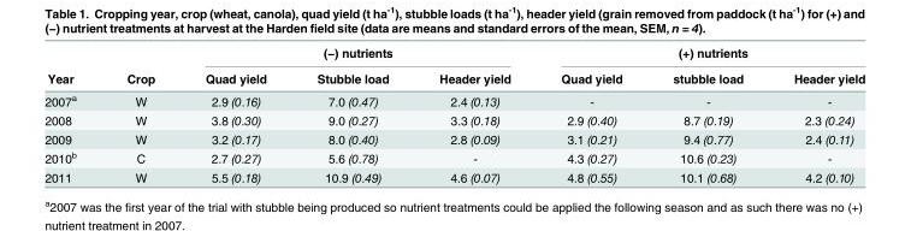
<table><thead><tr><td rowspan="2">Year</td><td rowspan="2">Crop</td><td colspan="3">(−) nutrients</td><td colspan="3">(+) nutrients</td></tr><tr><td>Quad yield</td><td>Stubble load</td><td>Header yield</td><td>Quad yield</td><td>stubble load</td><td>Header yield</td></tr></thead><tbody><tr><td>2007<sup>a</sup></td><td>W</td><td>2.9 (0.16)</td><td>7.0 (0.47)</td><td>2.4 (0.13)</td><td>-</td><td>-</td><td>-</td></tr><tr><td>2008</td><td>W</td><td>3.8 (0.30)</td><td>9.0 (0.27)</td><td>3.3 (0.18)</td><td>2.9 (0.40)</td><td>8.7 (0.19)</td><td>2.3 (0.24)</td></tr><tr><td>2009</td><td>W</td><td>3.2 (0.17)</td><td>8.0 (0.40)</td><td>2.8 (0.09)</td><td>3.1 (0.21)</td><td>9.4 (0.77)</td><td>2.4 (0.11)</td></tr><tr><td>2010<sup>b</sup></td><td>C</td><td>2.7 (0.27)</td><td>5.6 (0.78)</td><td>-</td><td>4.3 (0.27)</td><td>10.6 (0.23)</td><td>-</td></tr><tr><td>2011</td><td>W</td><td>5.5 (0.18)</td><td>10.9 (0.49)</td><td>4.6 (0.07)</td><td>4.8 (0.55)</td><td>10.1 (0.68)</td><td>4.2 (0.10)</td></tr></tbody></table>